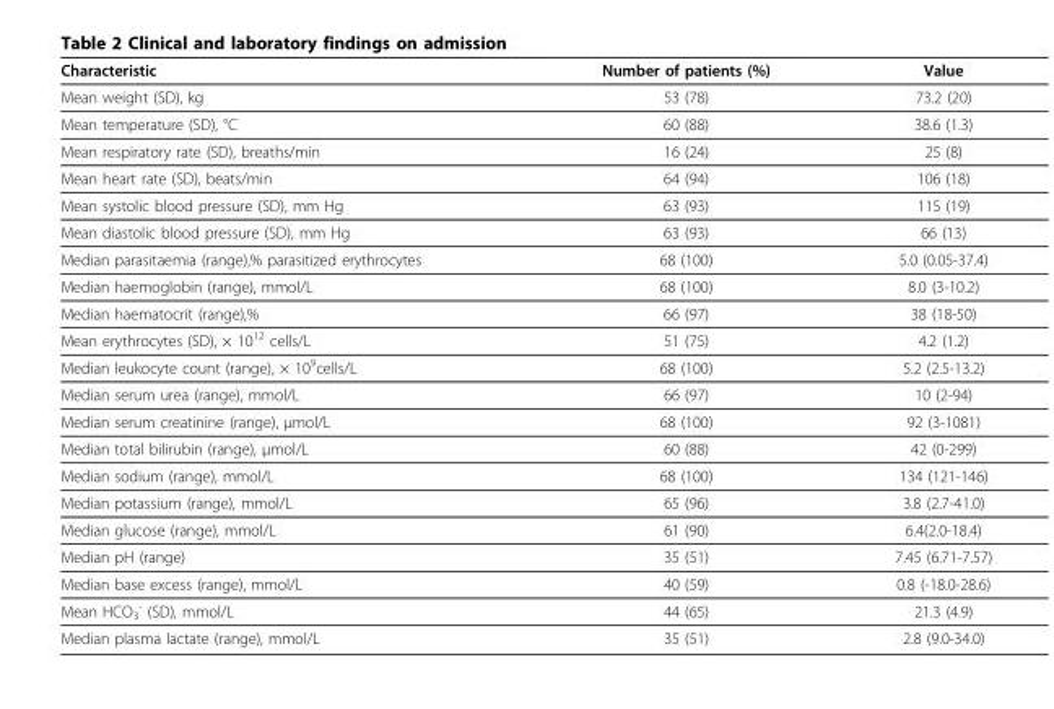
<table><thead><tr><td>Characteristic</td><td>Number of patients (%)</td><td>Value</td></tr></thead><tbody><tr><td>Mean weight (SD), kg</td><td>53 (78)</td><td>73.2 (20)</td></tr><tr><td>Mean temperature (SD), °C</td><td>60 (88)</td><td>38.6 (1.3)</td></tr><tr><td>Mean respiratory rate (SD), breaths/min</td><td>16 (24)</td><td>25 (8)</td></tr><tr><td>Mean heart rate (SD), beats/min</td><td>64 (94)</td><td>106 (18)</td></tr><tr><td>Mean systolic blood pressure (SD), mm Hg</td><td>63 (93)</td><td>115 (19)</td></tr><tr><td>Mean diastolic blood pressure (SD), mm Hg</td><td>63 (93)</td><td>66 (13)</td></tr><tr><td>Median parasitaemia (range),% parasitized erythrocytes</td><td>68 (100)</td><td>5.0 (0.05-37.4)</td></tr><tr><td>Median haemoglobin (range), mmol/L</td><td>68 (100)</td><td>8.0 (3-10.2)</td></tr><tr><td>Median haematocrit (range),%</td><td>66 (97)</td><td>38 (18-50)</td></tr><tr><td>Mean erythrocytes (SD), × 10<sup>12</sup> cells/L</td><td>51 (75)</td><td>4.2 (1.2)</td></tr><tr><td>Median leukocyte count (range), × 10<sup>9</sup>cells/L</td><td>68 (100)</td><td>5.2 (2.5-13.2)</td></tr><tr><td>Median serum urea (range), mmol/L</td><td>66 (97)</td><td>10 (2-94)</td></tr><tr><td>Median serum creatinine (range), μmol/L</td><td>68 (100)</td><td>92 (3-1081)</td></tr><tr><td>Median total bilirubin (range), μmol/L</td><td>60 (88)</td><td>42 (0-299)</td></tr><tr><td>Median sodium (range), mmol/L</td><td>68 (100)</td><td>134 (121-146)</td></tr><tr><td>Median potassium (range), mmol/L</td><td>65 (96)</td><td>3.8 (2.7-41.0)</td></tr><tr><td>Median glucose (range), mmol/L</td><td>61 (90)</td><td>6.4(2.0-18.4)</td></tr><tr><td>Median pH (range)</td><td>35 (51)</td><td>7.45 (6.71-7.57)</td></tr><tr><td>Median base excess (range), mmol/L</td><td>40 (59)</td><td>0.8 (-18.0-28.6)</td></tr><tr><td>Mean HCO<sub>3</sub> <sup>-</sup> (SD), mmol/L</td><td>44 (65)</td><td>21.3 (4.9)</td></tr><tr><td>Median plasma lactate (range), mmol/L</td><td>35 (51)</td><td>2.8 (9.0-34.0)</td></tr></tbody></table>